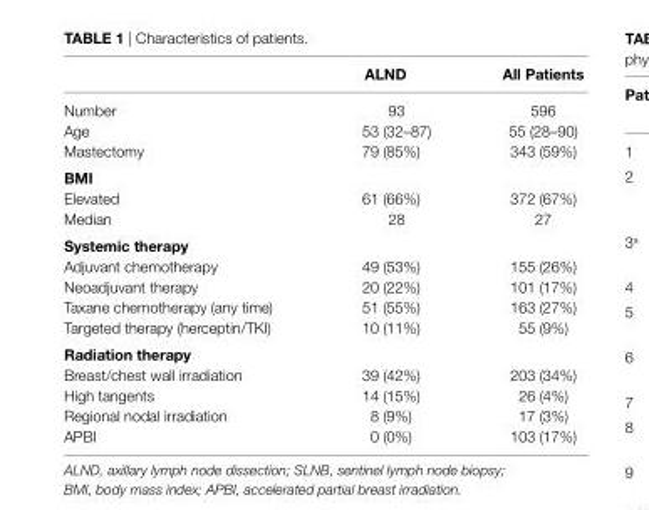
<table><thead><tr><td></td><td>alnD</td><td>all Patients</td></tr></thead><tbody><tr><td>Number</td><td>93</td><td>596</td></tr><tr><td>Age</td><td>53 (32–87)</td><td>55 (28–90)</td></tr><tr><td>Mastectomy</td><td>79 (85%)</td><td>343 (59%)</td></tr><tr><td colspan="3">BMi</td></tr><tr><td>Elevated</td><td>61 (66%)</td><td>372 (67%)</td></tr><tr><td>Median</td><td>28</td><td>27</td></tr><tr><td colspan="3">systemic therapy</td></tr><tr><td>Adjuvant chemotherapy</td><td>49 (53%)</td><td>155 (26%)</td></tr><tr><td>Neoadjuvant therapy</td><td>20 (22%)</td><td>101 (17%)</td></tr><tr><td>Taxane chemotherapy (any time)</td><td>51 (55%)</td><td>163 (27%)</td></tr><tr><td>Targeted therapy (herceptin/TKI)</td><td>10 (11%)</td><td>55 (9%)</td></tr><tr><td colspan="3">radiation therapy</td></tr><tr><td>Breast/chest wall irradiation</td><td>39 (42%)</td><td>203 (34%)</td></tr><tr><td>High tangents</td><td>14 (15%)</td><td>26 (4%)</td></tr><tr><td>Regional nodal irradiation</td><td>8 (9%)</td><td>17 (3%)</td></tr><tr><td>APBI</td><td>0 (0%)</td><td>103 (17%)</td></tr></tbody></table>